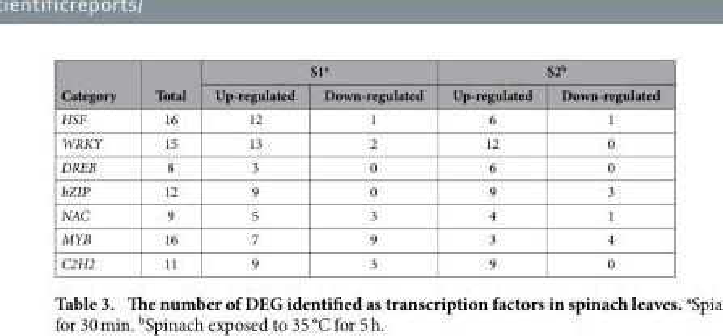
<table><thead><tr><td rowspan="2">Category</td><td rowspan="2">Total</td><td colspan="2">S1<sup>a</sup></td><td colspan="2">S2<sup>b</sup></td></tr><tr><td>Up-regulated</td><td>Down-regulated</td><td>Up-regulated</td><td>Down-regulated</td></tr></thead><tbody><tr><td>HSF</td><td>16</td><td>12</td><td>1</td><td>6</td><td>1</td></tr><tr><td>WRKY</td><td>15</td><td>13</td><td>2</td><td>12</td><td>0</td></tr><tr><td>DREB</td><td>8</td><td>3</td><td>0</td><td>6</td><td>0</td></tr><tr><td>bZIP</td><td>12</td><td>9</td><td>0</td><td>9</td><td>3</td></tr><tr><td>NAC</td><td>9</td><td>5</td><td>3</td><td>4</td><td>1</td></tr><tr><td>MYB</td><td>16</td><td>7</td><td>9</td><td>3</td><td>4</td></tr><tr><td>C2H2</td><td>11</td><td>9</td><td>3</td><td>9</td><td>0</td></tr></tbody></table>